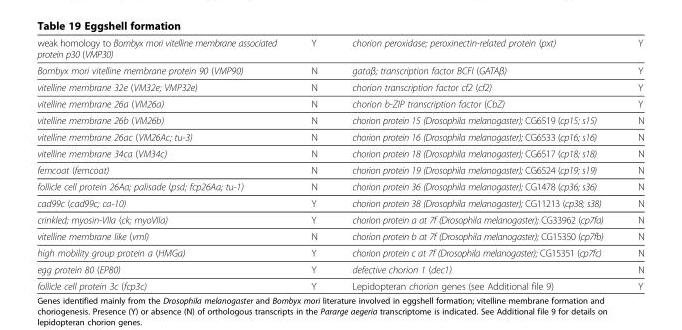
<table><tbody><tr><td>weak homology to Bombyx mori vitelline membrane associated protein p30 (VMP30)</td><td>Y</td><td>chorion peroxidase; peroxinectin-related protein (pxt)</td><td>Y</td></tr><tr><td>Bombyx mori vitelline membrane protein 90 (VMP90)</td><td>N</td><td>gataβ; transcription factor BCFI (GATAβ)</td><td>Y</td></tr><tr><td>vitelline membrane 32e (VM32e; VMP32e)</td><td>N</td><td>chorion transcription factor cf2 (cf2)</td><td>Y</td></tr><tr><td>vitelline membrane 26a (VM26a)</td><td>N</td><td>chorion b-ZIP transcription factor (CbZ)</td><td>Y</td></tr><tr><td>vitelline membrane 26b (VM26b)</td><td>N</td><td>chorion protein 15 (Drosophila melanogaster); CG6519 (cp15; s15)</td><td>N</td></tr><tr><td>vitelline membrane 26ac (VM26Ac; tu-3)</td><td>N</td><td>chorion protein 16 (Drosophila melanogaster); CG6533 (cp16; s16)</td><td>N</td></tr><tr><td>vitelline membrane 34ca (VM34c)</td><td>N</td><td>chorion protein 18 (Drosophila melanogaster); CG6517 (cp18; s18)</td><td>N</td></tr><tr><td>femcoat (femcoat)</td><td>N</td><td>chorion protein 19 (Drosophila melanogaster); CG6524 (cp19; s19)</td><td>N</td></tr><tr><td>follicle cell protein 26Aa; palisade (psd; fcp26Aa; tu-1)</td><td>N</td><td>chorion protein 36 (Drosophila melanogaster); CG1478 (cp36; s36)</td><td>N</td></tr><tr><td>cad99c (cad99c; ca-10)</td><td>Y</td><td>chorion protein 38 (Drosophila melanogaster); CG11213 (cp38; s38)</td><td>N</td></tr><tr><td>crinkled; myosin-VIIa (ck; myoVIIa)</td><td>Y</td><td>chorion protein a at 7f (Drosophila melanogaster); CG33962 (cp7fa)</td><td>N</td></tr><tr><td>vitelline membrane like (vml)</td><td>N</td><td>chorion protein b at 7f (Drosophila melanogaster); CG15350 (cp7fb)</td><td>N</td></tr><tr><td>high mobility group protein a (HMGa)</td><td>Y</td><td>chorion protein c at 7f (Drosophila melanogaster); CG15351 (cp7fc)</td><td>N</td></tr><tr><td>egg protein 80 (EP80)</td><td>Y</td><td>defective chorion 1 (dec1)</td><td>N</td></tr><tr><td>follicle cell protein 3c (fcp3c)</td><td>Y</td><td>Lepidopteran chorion genes (see Additional file 9)</td><td>Y</td></tr></tbody></table>